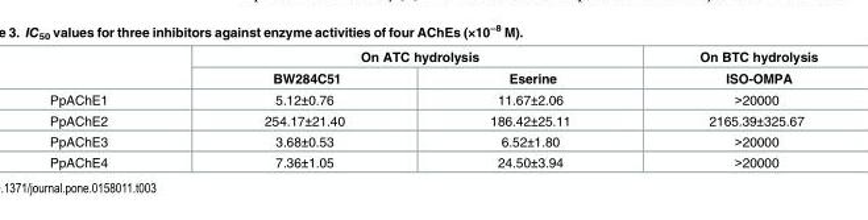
<table><thead><tr><td rowspan="2"></td><td colspan="2">On ATC hydrolysis</td><td rowspan="2">On BTC hydrolysis ISO-OMPA</td></tr><tr><td>BW284C51</td><td>Eserine</td></tr></thead><tbody><tr><td>PpAChE1</td><td>5.12±0.76</td><td>11.67±2.06</td><td>&gt;20000</td></tr><tr><td>PpAChE2</td><td>254.17±21.40</td><td>186.42±25.11</td><td>2165.39±325.67</td></tr><tr><td>PpAChE3</td><td>3.68±0.53</td><td>6.52±1.80</td><td>&gt;20000</td></tr><tr><td>PpAChE4</td><td>7.36±1.05</td><td>24.50±3.94</td><td>&gt;20000</td></tr></tbody></table>